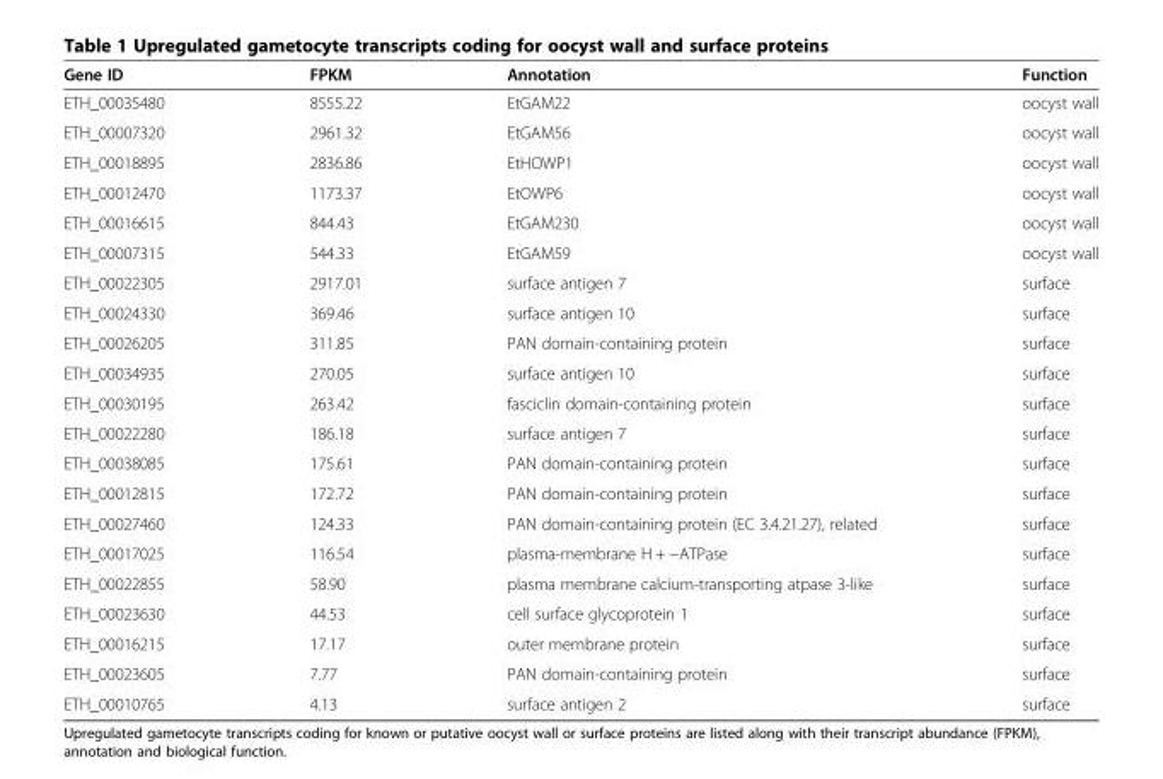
<table><thead><tr><td>Gene ID</td><td>FPKM</td><td>Annotation</td><td>Function</td></tr></thead><tbody><tr><td>ETH_00035480</td><td>8555.22</td><td>EtGAM22</td><td>oocyst wall</td></tr><tr><td>ETH_00007320</td><td>2961.32</td><td>EtGAM56</td><td>oocyst wall</td></tr><tr><td>ETH_00018895</td><td>2836.86</td><td>EtHOWP1</td><td>oocyst wall</td></tr><tr><td>ETH_00012470</td><td>1173.37</td><td>EtOWP6</td><td>oocyst wall</td></tr><tr><td>ETH_00016615</td><td>844.43</td><td>EtGAM230</td><td>oocyst wall</td></tr><tr><td>ETH_00007315</td><td>544.33</td><td>EtGAM59</td><td>oocyst wall</td></tr><tr><td>ETH_00022305</td><td>2917.01</td><td>surface antigen 7</td><td>surface</td></tr><tr><td>ETH_00024330</td><td>369.46</td><td>surface antigen 10</td><td>surface</td></tr><tr><td>ETH_00026205</td><td>311.85</td><td>PAN domain-containing protein</td><td>surface</td></tr><tr><td>ETH_00034935</td><td>270.05</td><td>surface antigen 10</td><td>surface</td></tr><tr><td>ETH_00030195</td><td>263.42</td><td>fasciclin domain-containing protein</td><td>surface</td></tr><tr><td>ETH_00022280</td><td>186.18</td><td>surface antigen 7</td><td>surface</td></tr><tr><td>ETH_00038085</td><td>175.61</td><td>PAN domain-containing protein</td><td>surface</td></tr><tr><td>ETH_00012815</td><td>172.72</td><td>PAN domain-containing protein</td><td>surface</td></tr><tr><td>ETH_00027460</td><td>124.33</td><td>PAN domain-containing protein (EC 3.4.21.27), related</td><td>surface</td></tr><tr><td>ETH_00017025</td><td>116.54</td><td>plasma-membrane H + −ATPase</td><td>surface</td></tr><tr><td>ETH_00022855</td><td>58.90</td><td>plasma membrane calcium-transporting atpase 3-like</td><td>surface</td></tr><tr><td>ETH_00023630</td><td>44.53</td><td>cell surface glycoprotein 1</td><td>surface</td></tr><tr><td>ETH_00016215</td><td>17.17</td><td>outer membrane protein</td><td>surface</td></tr><tr><td>ETH_00023605</td><td>7.77</td><td>PAN domain-containing protein</td><td>surface</td></tr><tr><td>ETH_00010765</td><td>4.13</td><td>surface antigen 2</td><td>surface</td></tr></tbody></table>